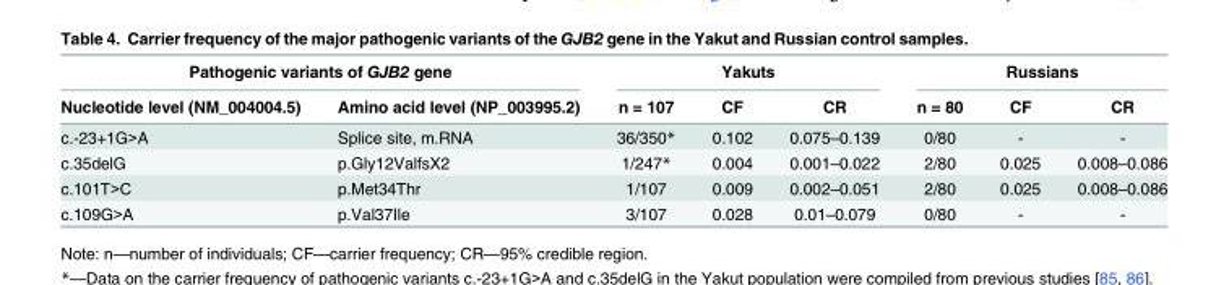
<table><thead><tr><td colspan="2">Pathogenic variants of GJB2 gene</td><td colspan="3">Yakuts</td><td colspan="3">Russians</td></tr><tr><td>Nucleotide level (NM_004004.5)</td><td>Amino acid level (NP_003995.2)</td><td>n = 107</td><td>CF</td><td>CR</td><td>n = 80</td><td>CF</td><td>CR</td></tr></thead><tbody><tr><td>c.-23+1G&gt;A</td><td>Splice site, m.RNA</td><td>36/350*</td><td>0.102</td><td>0.075–0.139</td><td>0/80</td><td>-</td><td>-</td></tr><tr><td>c.35delG</td><td>p.Gly12ValfsX2</td><td>1/247*</td><td>0.004</td><td>0.001–0.022</td><td>2/80</td><td>0.025</td><td>0.008–0.086</td></tr><tr><td>c.101Т&gt;С</td><td>p.Met34Thr</td><td>1/107</td><td>0.009</td><td>0.002–0.051</td><td>2/80</td><td>0.025</td><td>0.008–0.086</td></tr><tr><td>c.109G&gt;A</td><td>p.Val37Ile</td><td>3/107</td><td>0.028</td><td>0.01–0.079</td><td>0/80</td><td>-</td><td>-</td></tr></tbody></table>